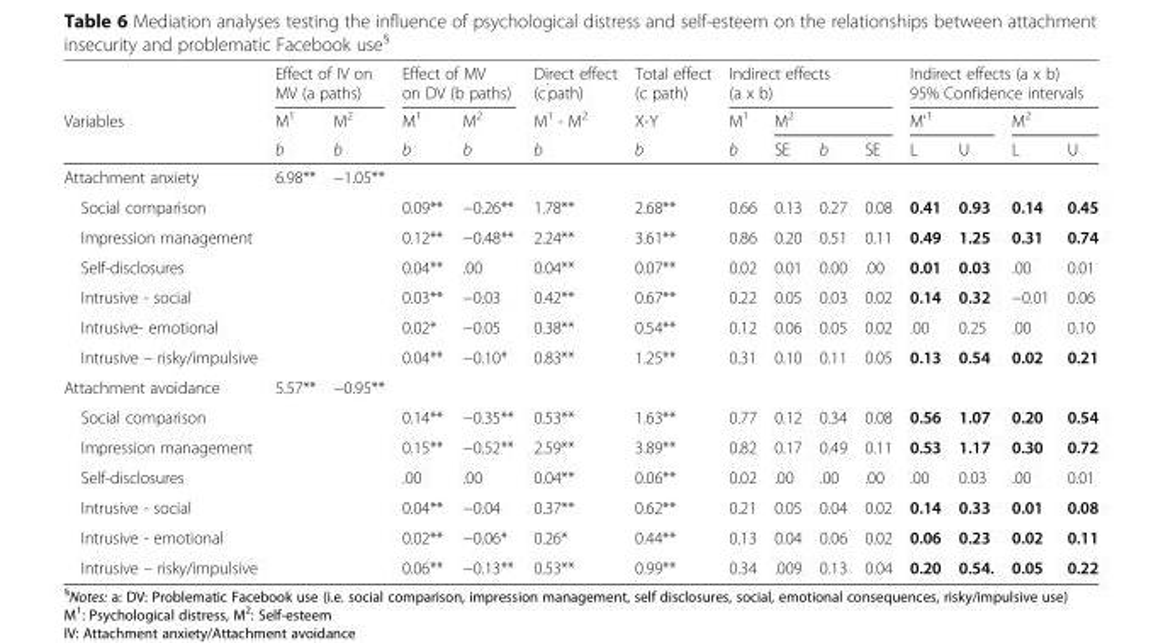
<table><thead><tr><td rowspan="3">Variables</td><td colspan="2">Effect of IV on MV (a paths)</td><td colspan="2">Effect of MV on DV (b paths)</td><td rowspan="3">Direct effect (c<sup>’</sup>path) M<sup>1</sup> - M<sup>2</sup> b</td><td rowspan="3">Total effect (c path) X-Y b</td><td colspan="4">Indirect effects (a x b)</td><td colspan="4">Indirect effects (a x b) 95% Confidence intervals</td></tr><tr><td rowspan="2">M<sup>1</sup> b</td><td rowspan="2">M<sup>2</sup> b</td><td rowspan="2">M<sup>1</sup> b</td><td rowspan="2">M<sup>2</sup> b</td><td rowspan="2">M<sup>1</sup> b</td><td colspan="3">M<sup>2</sup></td><td colspan="2">M&#x27;<sup>1</sup></td><td colspan="2">M<sup>2</sup></td></tr><tr><td>SE</td><td>b</td><td>SE</td><td>L</td><td>U</td><td>L</td><td>U</td></tr></thead><tbody><tr><td>Attachment anxiety</td><td>6.98**</td><td>−1.05**</td><td></td><td></td><td></td><td></td><td></td><td></td><td></td><td></td><td></td><td></td><td></td><td></td></tr><tr><td>Social comparison</td><td></td><td></td><td>0.09**</td><td>−0.26**</td><td>1.78**</td><td>2.68**</td><td>0.66</td><td>0.13</td><td>0.27</td><td>0.08</td><td>0.41</td><td>0.93</td><td>0.14</td><td>0.45</td></tr><tr><td>Impression management</td><td></td><td></td><td>0.12**</td><td>−0.48**</td><td>2.24**</td><td>3.61**</td><td>0.86</td><td>0.20</td><td>0.51</td><td>0.11</td><td>0.49</td><td>1.25</td><td>0.31</td><td>0.74</td></tr><tr><td>Self-disclosures</td><td></td><td></td><td>0.04**</td><td>.00</td><td>0.04**</td><td>0.07**</td><td>0.02</td><td>0.01</td><td>0.00</td><td>.00</td><td>0.01</td><td>0.03</td><td>.00</td><td>0.01</td></tr><tr><td>Intrusive - social</td><td></td><td></td><td>0.03**</td><td>−0.03</td><td>0.42**</td><td>0.67**</td><td>0.22</td><td>0.05</td><td>0.03</td><td>0.02</td><td>0.14</td><td>0.32</td><td>−0.01</td><td>0.06</td></tr><tr><td>Intrusive- emotional</td><td></td><td></td><td>0.02*</td><td>−0.05</td><td>0.38**</td><td>0.54**</td><td>0.12</td><td>0.06</td><td>0.05</td><td>0.02</td><td>.00</td><td>0.25</td><td>.00</td><td>0.10</td></tr><tr><td>Intrusive – risky/impulsive</td><td></td><td></td><td>0.04**</td><td>−0.10*</td><td>0.83**</td><td>1.25**</td><td>0.31</td><td>0.10</td><td>0.11</td><td>0.05</td><td>0.13</td><td>0.54</td><td>0.02</td><td>0.21</td></tr><tr><td>Attachment avoidance</td><td>5.57**</td><td>−0.95**</td><td></td><td></td><td></td><td></td><td></td><td></td><td></td><td></td><td></td><td></td><td></td><td></td></tr><tr><td>Social comparison</td><td></td><td></td><td>0.14**</td><td>−0.35**</td><td>0.53**</td><td>1.63**</td><td>0.77</td><td>0.12</td><td>0.34</td><td>0.08</td><td>0.56</td><td>1.07</td><td>0.20</td><td>0.54</td></tr><tr><td>Impression management</td><td></td><td></td><td>0.15**</td><td>−0.52**</td><td>2.59**</td><td>3.89**</td><td>0.82</td><td>0.17</td><td>0.49</td><td>0.11</td><td>0.53</td><td>1.17</td><td>0.30</td><td>0.72</td></tr><tr><td>Self-disclosures</td><td></td><td></td><td>.00</td><td>.00</td><td>0.04**</td><td>0.06**</td><td>0.02</td><td>.00</td><td>.00</td><td>.00</td><td>.00</td><td>0.03</td><td>.00</td><td>0.01</td></tr><tr><td>Intrusive - social</td><td></td><td></td><td>0.04**</td><td>−0.04</td><td>0.37**</td><td>0.62**</td><td>0.21</td><td>0.05</td><td>0.04</td><td>0.02</td><td>0.14</td><td>0.33</td><td>0.01</td><td>0.08</td></tr><tr><td>Intrusive - emotional</td><td></td><td></td><td>0.02**</td><td>−0.06*</td><td>0.26*</td><td>0.44**</td><td>0.13</td><td>0.04</td><td>0.06</td><td>0.02</td><td>0.06</td><td>0.23</td><td>0.02</td><td>0.11</td></tr><tr><td>Intrusive – risky/impulsive</td><td></td><td></td><td>0.06**</td><td>−0.13**</td><td>0.53**</td><td>0.99**</td><td>0.34</td><td>.009</td><td>0.13</td><td>0.04</td><td>0.20</td><td>0.54.</td><td>0.05</td><td>0.22</td></tr></tbody></table>